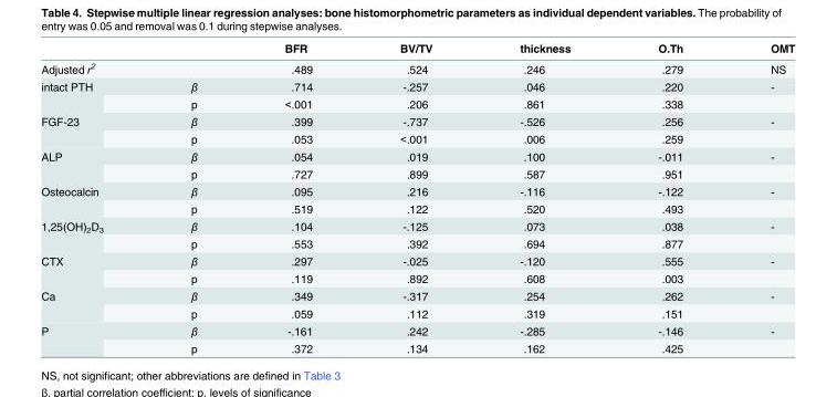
<table><thead><tr><td></td><td></td><td>BFR</td><td>BV/TV</td><td>thickness</td><td>O.Th</td><td>OMT</td></tr></thead><tbody><tr><td>Adjusted r<sup>2</sup></td><td></td><td>.489</td><td>.524</td><td>.246</td><td>.279</td><td>NS</td></tr><tr><td rowspan="2">intact PTH</td><td>β</td><td>.714</td><td>-.257</td><td>.046</td><td>.220</td><td>-</td></tr><tr><td>p</td><td>&lt;.001</td><td>.206</td><td>.861</td><td>.338</td><td></td></tr><tr><td rowspan="2">FGF-23</td><td>β</td><td>.399</td><td>-.737</td><td>-.526</td><td>.256</td><td>-</td></tr><tr><td>p</td><td>.053</td><td>&lt;.001</td><td>.006</td><td>.259</td><td></td></tr><tr><td rowspan="2">ALP</td><td>β</td><td>.054</td><td>.019</td><td>.100</td><td>-.011</td><td>-</td></tr><tr><td>p</td><td>.727</td><td>.899</td><td>.587</td><td>.951</td><td></td></tr><tr><td rowspan="2">Osteocalcin</td><td>β</td><td>.095</td><td>.216</td><td>-.116</td><td>-.122</td><td>-</td></tr><tr><td>p</td><td>.519</td><td>.122</td><td>.520</td><td>.493</td><td></td></tr><tr><td rowspan="2">1,25(OH)<sub>2</sub>D<sub>3</sub></td><td>β</td><td>.104</td><td>-.125</td><td>.073</td><td>.038</td><td>-</td></tr><tr><td>p</td><td>.553</td><td>.392</td><td>.694</td><td>.877</td><td></td></tr><tr><td rowspan="2">CTX</td><td>β</td><td>.297</td><td>-.025</td><td>-.120</td><td>.555</td><td>-</td></tr><tr><td>p</td><td>.119</td><td>.892</td><td>.608</td><td>.003</td><td></td></tr><tr><td rowspan="2">Ca</td><td>β</td><td>.349</td><td>-.317</td><td>.254</td><td>.262</td><td>-</td></tr><tr><td>p</td><td>.059</td><td>.112</td><td>.319</td><td>.151</td><td></td></tr><tr><td rowspan="2">P</td><td>β</td><td>-.161</td><td>.242</td><td>-.285</td><td>-.146</td><td>-</td></tr><tr><td>p</td><td>.372</td><td>.134</td><td>.162</td><td>.425</td><td></td></tr></tbody></table>